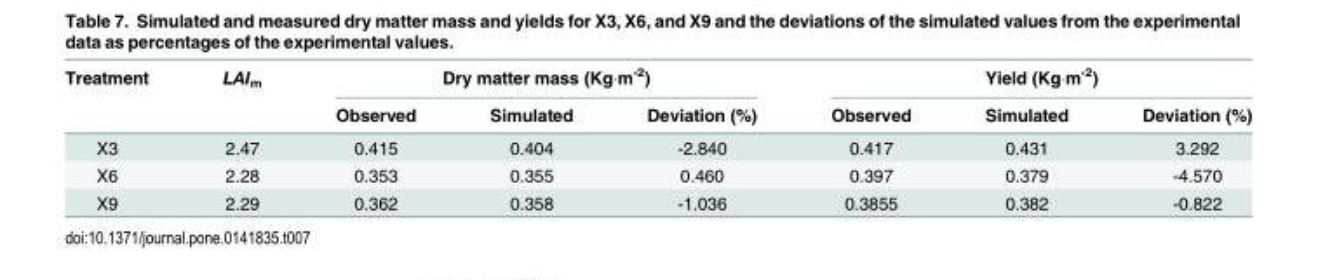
<table><thead><tr><td rowspan="2">Treatment</td><td rowspan="2">LAI<sub>m</sub></td><td colspan="3">Dry matter mass (Kg·m<sup>-2</sup>)</td><td colspan="3">Yield (Kg·m<sup>-2</sup>)</td></tr><tr><td>Observed</td><td>Simulated</td><td>Deviation (%)</td><td>Observed</td><td>Simulated</td><td>Deviation (%)</td></tr></thead><tbody><tr><td>X3</td><td>2.47</td><td>0.415</td><td>0.404</td><td>-2.840</td><td>0.417</td><td>0.431</td><td>3.292</td></tr><tr><td>X6</td><td>2.28</td><td>0.353</td><td>0.355</td><td>0.460</td><td>0.397</td><td>0.379</td><td>-4.570</td></tr><tr><td>X9</td><td>2.29</td><td>0.362</td><td>0.358</td><td>-1.036</td><td>0.3855</td><td>0.382</td><td>-0.822</td></tr></tbody></table>